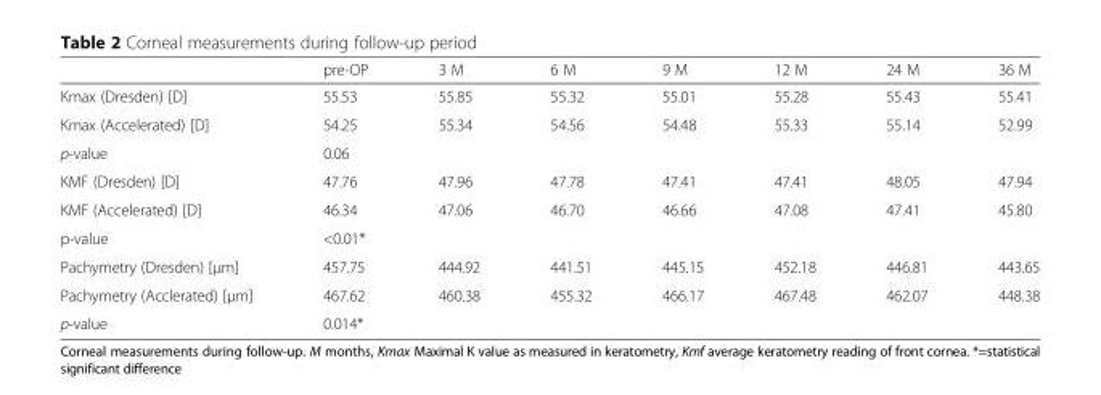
<table><thead><tr><td></td><td>pre-OP</td><td>3 M</td><td>6 M</td><td>9 M</td><td>12 M</td><td>24 M</td><td>36 M</td></tr></thead><tbody><tr><td>Kmax (Dresden) [D]</td><td>55.53</td><td>55.85</td><td>55.32</td><td>55.01</td><td>55.28</td><td>55.43</td><td>55.41</td></tr><tr><td>Kmax (Accelerated) [D]</td><td>54.25</td><td>55.34</td><td>54.56</td><td>54.48</td><td>55.33</td><td>55.14</td><td>52.99</td></tr><tr><td>p-value</td><td>0.06</td><td></td><td></td><td></td><td></td><td></td><td></td></tr><tr><td>KMF (Dresden) [D]</td><td>47.76</td><td>47.96</td><td>47.78</td><td>47.41</td><td>47.41</td><td>48.05</td><td>47.94</td></tr><tr><td>KMF (Accelerated) [D]</td><td>46.34</td><td>47.06</td><td>46.70</td><td>46.66</td><td>47.08</td><td>47.41</td><td>45.80</td></tr><tr><td>p-value</td><td>&lt;0.01*</td><td></td><td></td><td></td><td></td><td></td><td></td></tr><tr><td>Pachymetry (Dresden) [μm]</td><td>457.75</td><td>444.92</td><td>441.51</td><td>445.15</td><td>452.18</td><td>446.81</td><td>443.65</td></tr><tr><td>Pachymetry (Acclerated) [μm]</td><td>467.62</td><td>460.38</td><td>455.32</td><td>466.17</td><td>467.48</td><td>462.07</td><td>448.38</td></tr><tr><td>p-value</td><td>0.014*</td><td></td><td></td><td></td><td></td><td></td><td></td></tr></tbody></table>